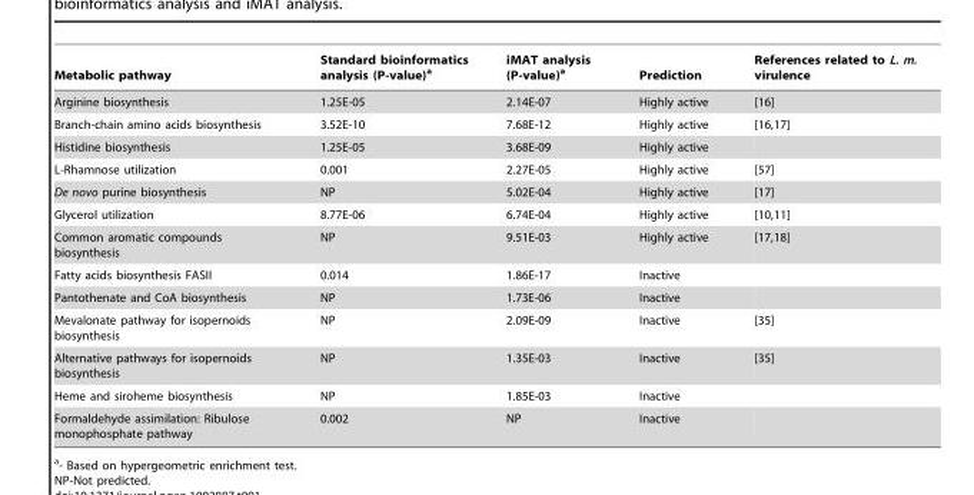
<table><thead><tr><td>Metabolic pathway</td><td>Standard bioinformatics analysis (P-value)<sup>a</sup></td><td>iMAT analysis (P-value)<sup>a</sup></td><td>Prediction</td><td>References related to L. m. virulence</td></tr></thead><tbody><tr><td>Arginine biosynthesis</td><td>1.25E-05</td><td>2.14E-07</td><td>Highly active</td><td>[16]</td></tr><tr><td>Branch-chain amino acids biosynthesis</td><td>3.52E-10</td><td>7.68E-12</td><td>Highly active</td><td>[16,17]</td></tr><tr><td>Histidine biosynthesis</td><td>1.25E-05</td><td>3.68E-09</td><td>Highly active</td><td></td></tr><tr><td>L-Rhamnose utilization</td><td>0.001</td><td>2.27E-05</td><td>Highly active</td><td>[57]</td></tr><tr><td>De novo purine biosynthesis</td><td>NP</td><td>5.02E-04</td><td>Highly active</td><td>[17]</td></tr><tr><td>Glycerol utilization</td><td>8.77E-06</td><td>6.74E-04</td><td>Highly active</td><td>[10,11]</td></tr><tr><td>Common aromatic compounds biosynthesis</td><td>NP</td><td>9.51E-03</td><td>Highly active</td><td>[17,18]</td></tr><tr><td>Fatty acids biosynthesis FASII</td><td>0.014</td><td>1.86E-17</td><td>Inactive</td><td></td></tr><tr><td>Pantothenate and CoA biosynthesis</td><td>NP</td><td>1.73E-06</td><td>Inactive</td><td></td></tr><tr><td>Mevalonate pathway for isopernoids biosynthesis</td><td>NP</td><td>2.09E-09</td><td>Inactive</td><td>[35]</td></tr><tr><td>Alternative pathways for isopernoids biosynthesis</td><td>NP</td><td>1.35E-03</td><td>Inactive</td><td>[35]</td></tr><tr><td>Heme and siroheme biosynthesis</td><td>NP</td><td>1.85E-03</td><td>Inactive</td><td></td></tr><tr><td>Formaldehyde assimilation: Ribulose monophosphate pathway</td><td>0.002</td><td>NP</td><td>Inactive</td><td></td></tr></tbody></table>